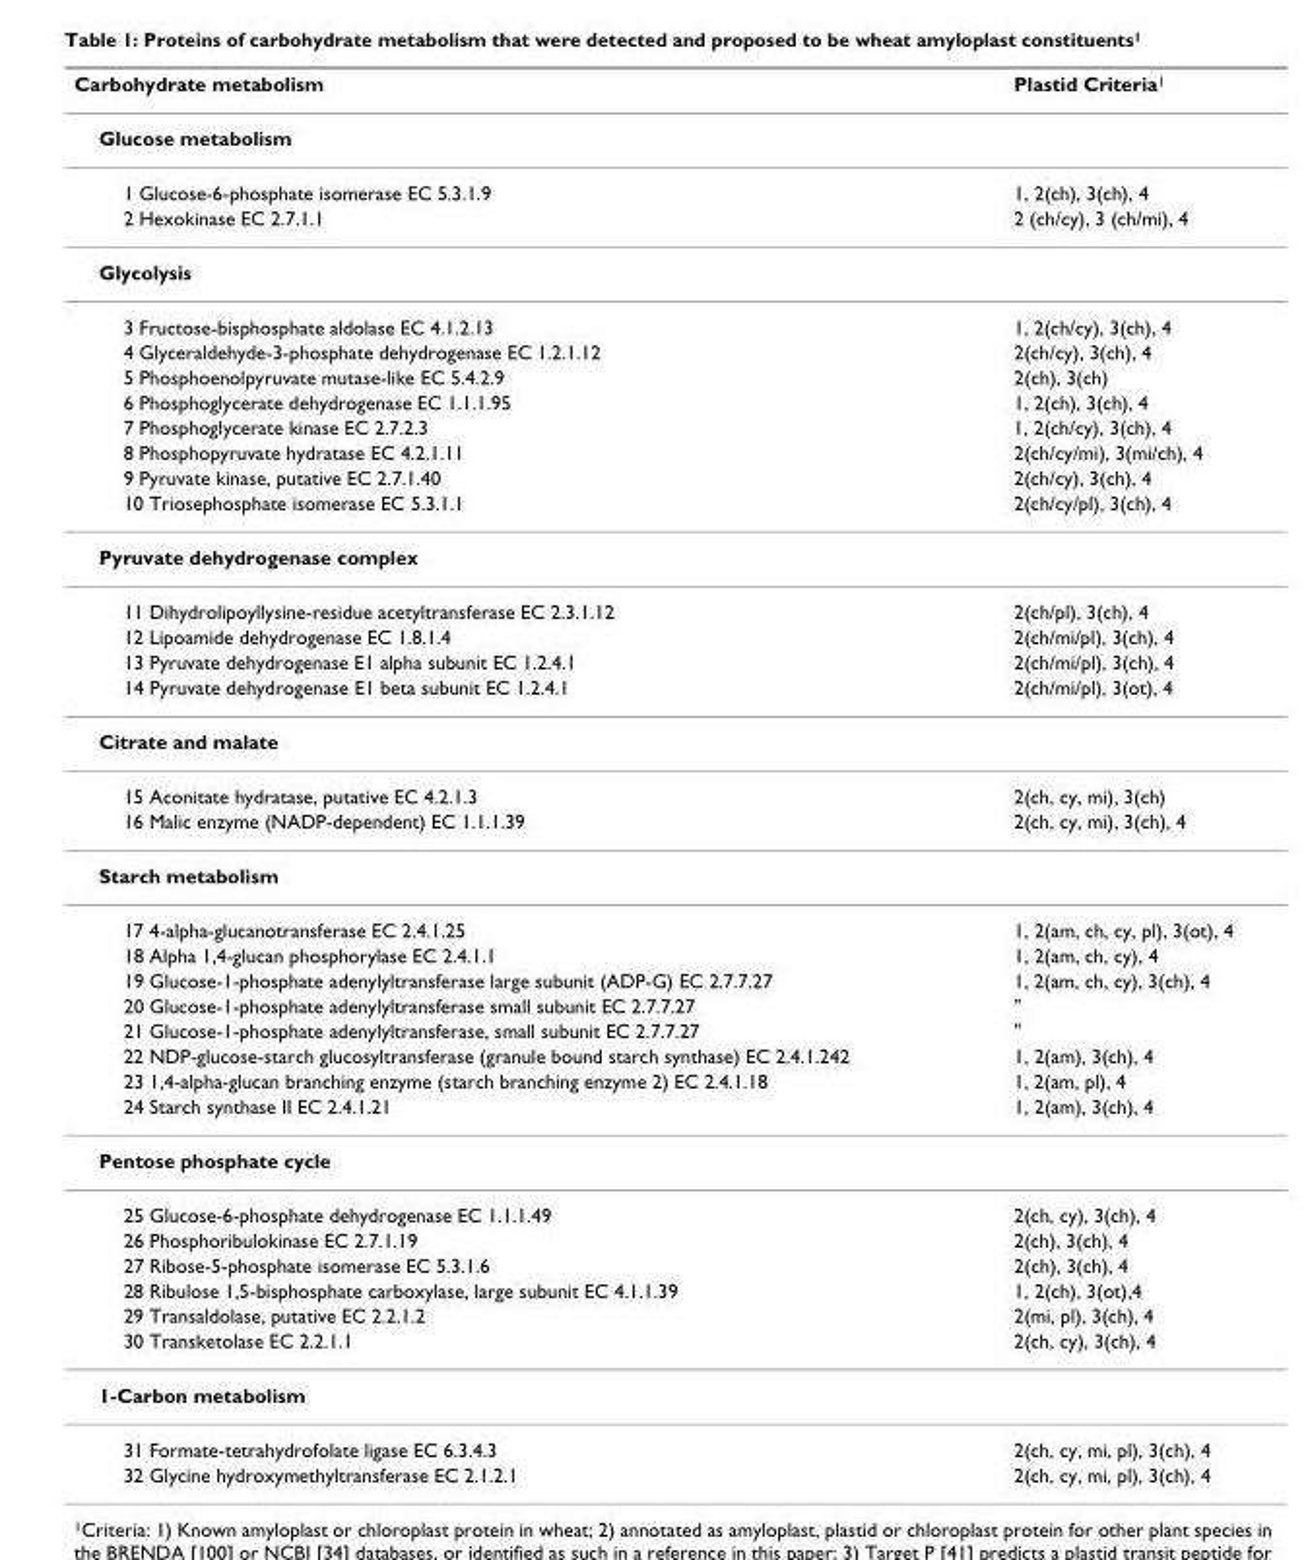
<table><thead><tr><td>Carbohydrate metabolism</td><td>Plastid Criteria<sup>1</sup></td></tr></thead><tbody><tr><td colspan="2">Glucose metabolism</td></tr><tr><td>1 Glucose-6-phosphate isomerase EC 5.3.1.9</td><td>1, 2(ch), 3(ch), 4</td></tr><tr><td>2 Hexokinase EC 2.7.1.1</td><td>2 (ch/cy), 3 (ch/mi), 4</td></tr><tr><td colspan="2">Glycolysis</td></tr><tr><td>3 Fructose-bisphosphate aldolase EC 4.1.2.13</td><td>1, 2(ch/cy), 3(ch), 4</td></tr><tr><td>4 Glyceraldehyde-3-phosphate dehydrogenase EC 1.2.1.12</td><td>2(ch/cy), 3(ch), 4</td></tr><tr><td>5 Phosphoenolpyruvate mutase-like EC 5.4.2.9</td><td>2(ch), 3(ch)</td></tr><tr><td>6 Phosphoglycerate dehydrogenase EC 1.1.1.95</td><td>1, 2(ch), 3(ch), 4</td></tr><tr><td>7 Phosphoglycerate kinase EC 2.7.2.3</td><td>1, 2(ch/cy), 3(ch), 4</td></tr><tr><td>8 Phosphopyruvate hydratase EC 4.2.1.11</td><td>2(ch/cy/mi), 3(mi/ch), 4</td></tr><tr><td>9 Pyruvate kinase, putative EC 2.7.1.40</td><td>2(ch/cy), 3(ch), 4</td></tr><tr><td>10 Triosephosphate isomerase EC 5.3.1.1</td><td>2(ch/cy/pl), 3(ch), 4</td></tr><tr><td colspan="2">Pyruvate dehydrogenase complex</td></tr><tr><td>11 Dihydrolipoyllysine-residue acetyltransferase EC 2.3.1.12</td><td>2(ch/pl), 3(ch), 4</td></tr><tr><td>12 Lipoamide dehydrogenase EC 1.8.1.4</td><td>2(ch/mi/pl), 3(ch), 4</td></tr><tr><td>13 Pyruvate dehydrogenase E1 alpha subunit EC 1.2.4.1</td><td>2(ch/mi/pl), 3(ch), 4</td></tr><tr><td>14 Pyruvate dehydrogenase E1 beta subunit EC 1.2.4.1</td><td>2(ch/mi/pl), 3(ot), 4</td></tr><tr><td colspan="2">Citrate and malate</td></tr><tr><td>15 Aconitate hydratase, putative EC 4.2.1.3</td><td>2(ch, cy, mi), 3(ch)</td></tr><tr><td>16 Malic enzyme (NADP-dependent) EC 1.1.1.39</td><td>2(ch, cy, mi), 3(ch), 4</td></tr><tr><td colspan="2">Starch metabolism</td></tr><tr><td>17 4-alpha-glucanotransferase EC 2.4.1.25</td><td>1, 2(am, ch, cy, pl), 3(ot), 4</td></tr><tr><td>18 Alpha 1,4-glucan phosphorylase EC 2.4.1.1</td><td>1, 2(am, ch, cy), 4</td></tr><tr><td>19 Glucose-1-phosphate adenylyltransferase large subunit (ADP-G) EC 2.7.7.27</td><td>1, 2(am, ch, cy), 3(ch), 4</td></tr><tr><td>20 Glucose-1-phosphate adenylyltransferase small subunit EC 2.7.7.27</td><td>&quot;</td></tr><tr><td>21 Glucose-1-phosphate adenylyltransferase, small subunit EC 2.7.7.27</td><td>&quot;</td></tr><tr><td>22 NDP-glucose-starch glucosyltransferase (granule bound starch synthase) EC 2.4.1.242</td><td>1, 2(am), 3(ch), 4</td></tr><tr><td>23 1,4-alpha-glucan branching enzyme (starch branching enzyme 2) EC 2.4.1.18</td><td>1, 2(am, pl), 4</td></tr><tr><td>24 Starch synthase II EC 2.4.1.21</td><td>1, 2(am), 3(ch), 4</td></tr><tr><td colspan="2">Pentose phosphate cycle</td></tr><tr><td>25 Glucose-6-phosphate dehydrogenase EC 1.1.1.49</td><td>2(ch, cy), 3(ch), 4</td></tr><tr><td>26 Phosphoribulokinase EC 2.7.1.19</td><td>2(ch), 3(ch), 4</td></tr><tr><td>27 Ribose-5-phosphate isomerase EC 5.3.1.6</td><td>2(ch), 3(ch), 4</td></tr><tr><td>28 Ribulose 1,5-bisphosphate carboxylase, large subunit EC 4.1.1.39</td><td>1, 2(ch), 3(ot),4</td></tr><tr><td>29 Transaldolase, putative EC 2.2.1.2</td><td>2(mi, pl), 3(ch), 4</td></tr><tr><td>30 Transketolase EC 2.2.1.1</td><td>2(ch, cy), 3(ch), 4</td></tr><tr><td colspan="2">1-Carbon metabolism</td></tr><tr><td>31 Formate-tetrahydrofolate ligase EC 6.3.4.3</td><td>2(ch, cy, mi, pl), 3(ch), 4</td></tr><tr><td>32 Glycine hydroxymethyltransferase EC 2.1.2.1</td><td>2(ch, cy, mi, pl), 3(ch), 4</td></tr></tbody></table>